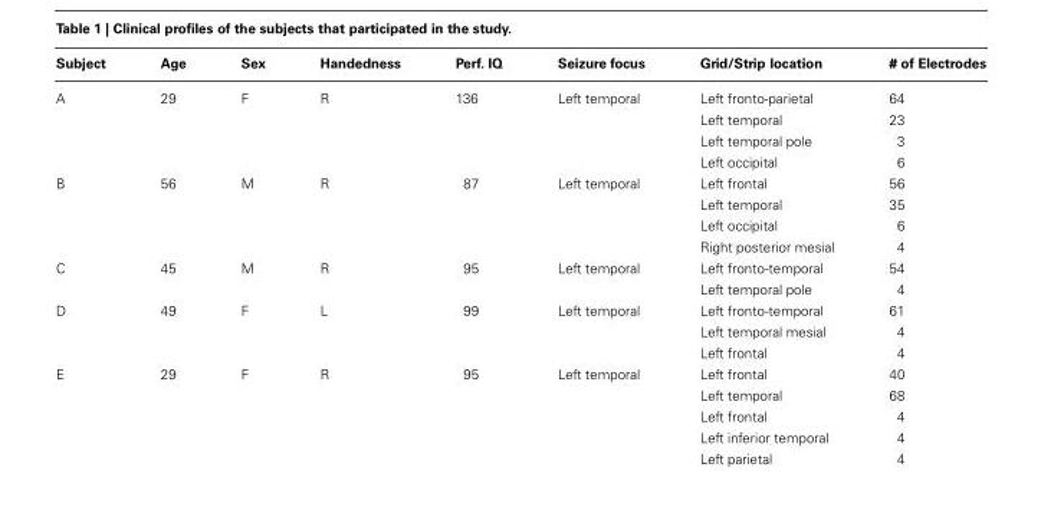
<table><thead><tr><td>Subject</td><td>Age</td><td>Sex</td><td>Handedness</td><td>Perf. IQ</td><td>Seizure focus</td><td>Grid/Strip location</td><td># of Electrodes</td></tr></thead><tbody><tr><td rowspan="4">A</td><td>29</td><td>F</td><td>R</td><td>136</td><td>Left temporal</td><td>Left fronto-parietal</td><td>64</td></tr><tr><td></td><td></td><td></td><td></td><td></td><td>Left temporal</td><td>23</td></tr><tr><td></td><td></td><td></td><td></td><td></td><td>Left temporal pole</td><td>3</td></tr><tr><td></td><td></td><td></td><td></td><td></td><td>Left occipital</td><td>6</td></tr><tr><td rowspan="4">B</td><td>56</td><td>M</td><td>R</td><td>87</td><td>Left temporal</td><td>Left frontal</td><td>56</td></tr><tr><td></td><td></td><td></td><td></td><td></td><td>Left temporal</td><td>35</td></tr><tr><td></td><td></td><td></td><td></td><td></td><td>Left occipital</td><td>6</td></tr><tr><td></td><td></td><td></td><td></td><td></td><td>Right posterior mesial</td><td>4</td></tr><tr><td rowspan="2">C</td><td>45</td><td>M</td><td>R</td><td>95</td><td>Left temporal</td><td>Left fronto-temporal</td><td>54</td></tr><tr><td></td><td></td><td></td><td></td><td></td><td>Left temporal pole</td><td>4</td></tr><tr><td rowspan="3">D</td><td>49</td><td>F</td><td>L</td><td>99</td><td>Left temporal</td><td>Left fronto-temporal</td><td>61</td></tr><tr><td></td><td></td><td></td><td></td><td></td><td>Left temporal mesial</td><td>4</td></tr><tr><td></td><td></td><td></td><td></td><td></td><td>Left frontal</td><td>4</td></tr><tr><td rowspan="5">E</td><td>29</td><td>F</td><td>R</td><td>95</td><td>Left temporal</td><td>Left frontal</td><td>40</td></tr><tr><td></td><td></td><td></td><td></td><td></td><td>Left temporal</td><td>68</td></tr><tr><td></td><td></td><td></td><td></td><td></td><td>Left frontal</td><td>4</td></tr><tr><td></td><td></td><td></td><td></td><td></td><td>Left inferior temporal</td><td>4</td></tr><tr><td></td><td></td><td></td><td></td><td></td><td>Left parietal</td><td>4</td></tr></tbody></table>